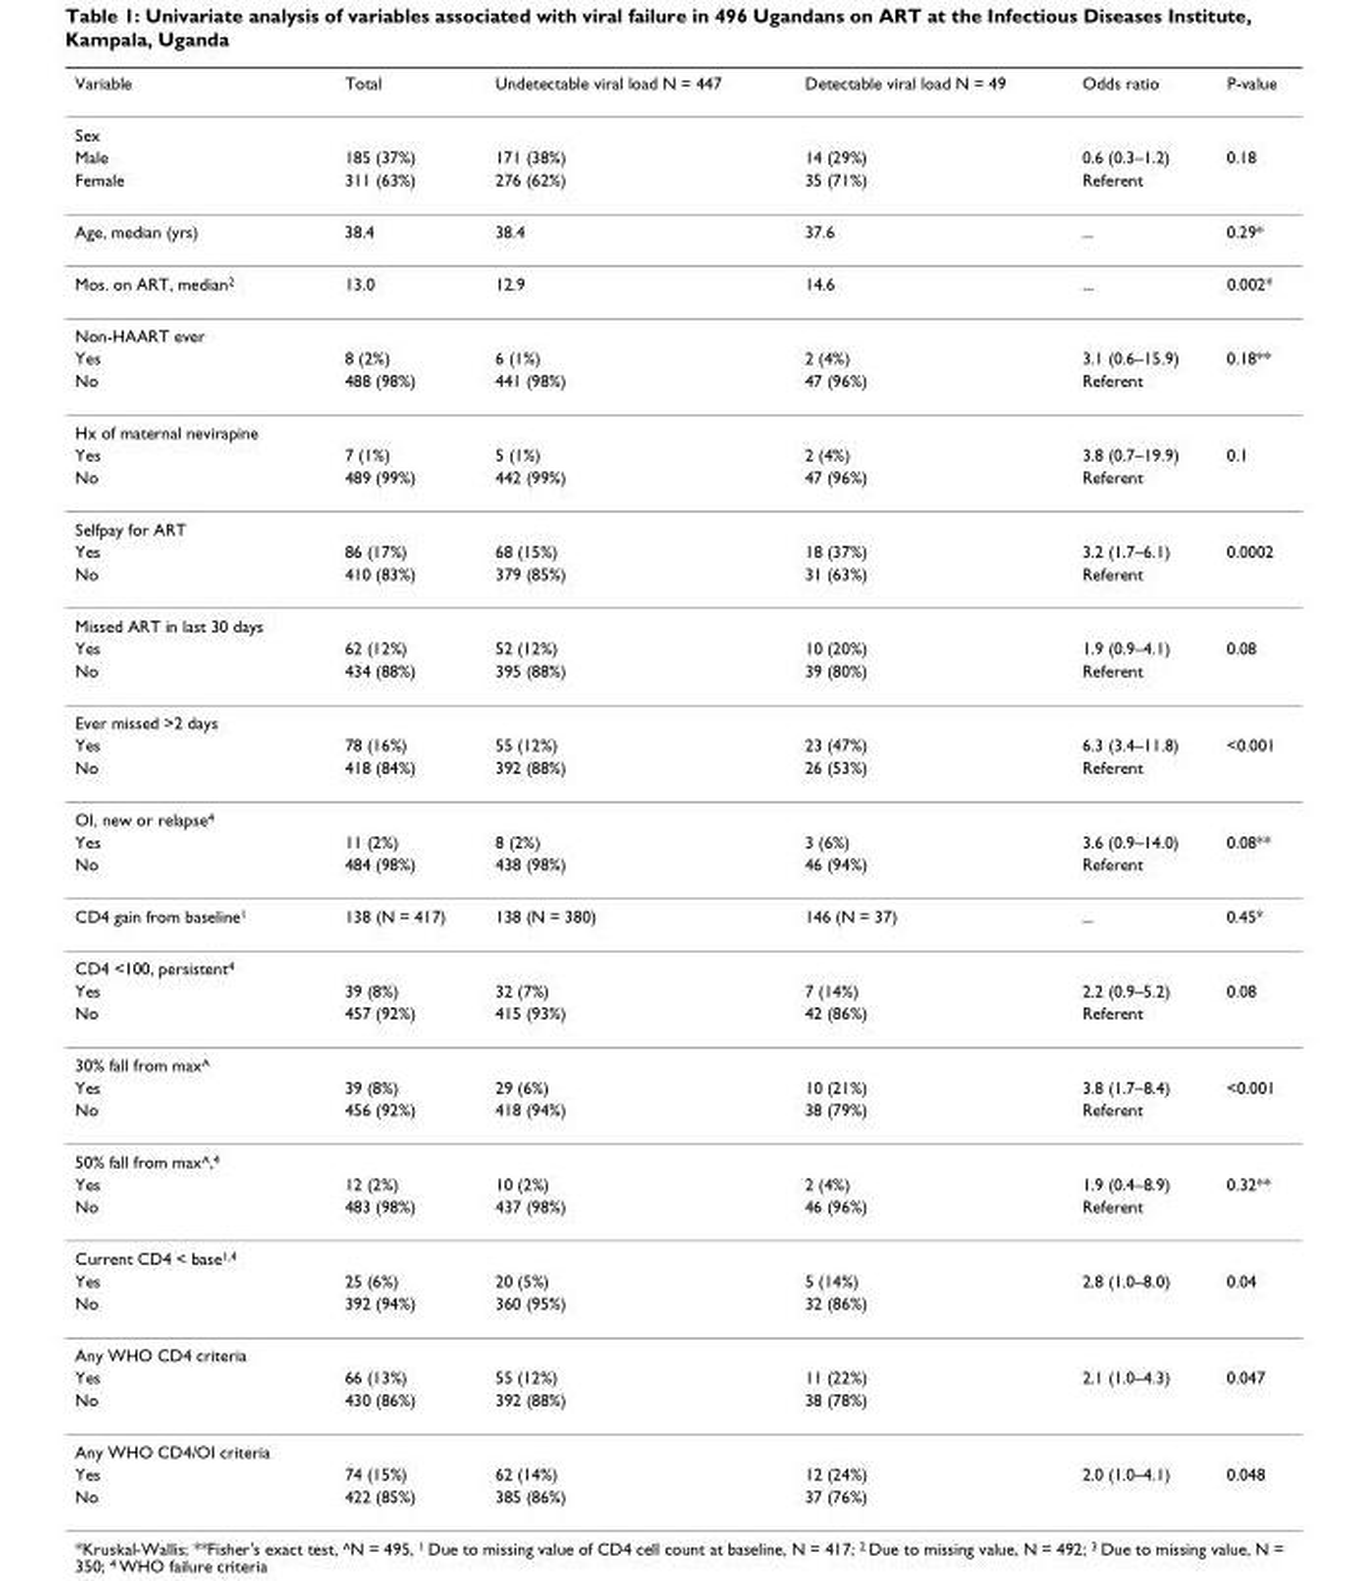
<table><thead><tr><td>Variable</td><td>Total</td><td>Undetectable viral load N = 447</td><td>Detectable viral load N = 49</td><td>Odds ratio</td><td>P-value</td></tr></thead><tbody><tr><td colspan="6">Sex</td></tr><tr><td>Male</td><td>185 (37%)</td><td>171 (38%)</td><td>14 (29%)</td><td>0.6 (0.3–1.2)</td><td>0.18</td></tr><tr><td>Female</td><td>311 (63%)</td><td>276 (62%)</td><td>35 (71%)</td><td>Referent</td><td></td></tr><tr><td>Age, median (yrs)</td><td>38.4</td><td>38.4</td><td>37.6</td><td>...</td><td>0.29*</td></tr><tr><td>Mos. on ART, median<sup>2</sup></td><td>13.0</td><td>12.9</td><td>14.6</td><td>...</td><td>0.002*</td></tr><tr><td colspan="6">Non-HAART ever</td></tr><tr><td>Yes</td><td>8 (2%)</td><td>6 (1%)</td><td>2 (4%)</td><td>3.1 (0.6–15.9)</td><td>0.18**</td></tr><tr><td>No</td><td>488 (98%)</td><td>441 (98%)</td><td>47 (96%)</td><td>Referent</td><td></td></tr><tr><td colspan="6">Hx of maternal nevirapine</td></tr><tr><td>Yes</td><td>7 (1%)</td><td>5 (1%)</td><td>2 (4%)</td><td>3.8 (0.7–19.9)</td><td>0.1</td></tr><tr><td>No</td><td>489 (99%)</td><td>442 (99%)</td><td>47 (96%)</td><td>Referent</td><td></td></tr><tr><td colspan="6">Selfpay for ART</td></tr><tr><td>Yes</td><td>86 (17%)</td><td>68 (15%)</td><td>18 (37%)</td><td>3.2 (1.7–6.1)</td><td>0.0002</td></tr><tr><td>No</td><td>410 (83%)</td><td>379 (85%)</td><td>31 (63%)</td><td>Referent</td><td></td></tr><tr><td colspan="6">Missed ART in last 30 days</td></tr><tr><td>Yes</td><td>62 (12%)</td><td>52 (12%)</td><td>10 (20%)</td><td>1.9 (0.9–4.1)</td><td>0.08</td></tr><tr><td>No</td><td>434 (88%)</td><td>395 (88%)</td><td>39 (80%)</td><td>Referent</td><td></td></tr><tr><td colspan="6">Ever missed &gt;2 days</td></tr><tr><td>Yes</td><td>78 (16%)</td><td>55 (12%)</td><td>23 (47%)</td><td>6.3 (3.4–11.8)</td><td>&lt;0.001</td></tr><tr><td>No</td><td>418 (84%)</td><td>392 (88%)</td><td>26 (53%)</td><td>Referent</td><td></td></tr><tr><td colspan="6">OI, new or relapse<sup>4</sup></td></tr><tr><td>Yes</td><td>11 (2%)</td><td>8 (2%)</td><td>3 (6%)</td><td>3.6 (0.9–14.0)</td><td>0.08**</td></tr><tr><td>No</td><td>484 (98%)</td><td>438 (98%)</td><td>46 (94%)</td><td>Referent</td><td></td></tr><tr><td>CD4 gain from baseline<sup>1</sup></td><td>138 (N = 417)</td><td>138 (N = 380)</td><td>146 (N = 37)</td><td>...</td><td>0.45*</td></tr><tr><td colspan="6">CD4 &lt;100, persistent<sup>4</sup></td></tr><tr><td>Yes</td><td>39 (8%)</td><td>32 (7%)</td><td>7 (14%)</td><td>2.2 (0.9–5.2)</td><td>0.08</td></tr><tr><td>No</td><td>457 (92%)</td><td>415 (93%)</td><td>42 (86%)</td><td>Referent</td><td></td></tr><tr><td colspan="6">30% fall from max^</td></tr><tr><td>Yes</td><td>39 (8%)</td><td>29 (6%)</td><td>10 (21%)</td><td>3.8 (1.7–8.4)</td><td>&lt;0.001</td></tr><tr><td>No</td><td>456 (92%)</td><td>418 (94%)</td><td>38 (79%)</td><td>Referent</td><td></td></tr><tr><td colspan="6">50% fall from max^,<sup>4</sup></td></tr><tr><td>Yes</td><td>12 (2%)</td><td>10 (2%)</td><td>2 (4%)</td><td>1.9 (0.4–8.9)</td><td>0.32**</td></tr><tr><td>No</td><td>483 (98%)</td><td>437 (98%)</td><td>46 (96%)</td><td>Referent</td><td></td></tr><tr><td colspan="6">Current CD4 &lt; base<sup>1,4</sup></td></tr><tr><td>Yes</td><td>25 (6%)</td><td>20 (5%)</td><td>5 (14%)</td><td>2.8 (1.0–8.0)</td><td>0.04</td></tr><tr><td>No</td><td>392 (94%)</td><td>360 (95%)</td><td>32 (86%)</td><td></td><td></td></tr><tr><td colspan="6">Any WHO CD4 criteria</td></tr><tr><td>Yes</td><td>66 (13%)</td><td>55 (12%)</td><td>11 (22%)</td><td>2.1 (1.0–4.3)</td><td>0.047</td></tr><tr><td>No</td><td>430 (86%)</td><td>392 (88%)</td><td>38 (78%)</td><td></td><td></td></tr><tr><td colspan="6">Any WHO CD4/OI criteria</td></tr><tr><td>Yes</td><td>74 (15%)</td><td>62 (14%)</td><td>12 (24%)</td><td>2.0 (1.0–4.1)</td><td>0.048</td></tr><tr><td>No</td><td>422 (85%)</td><td>385 (86%)</td><td>37 (76%)</td><td></td><td></td></tr></tbody></table>